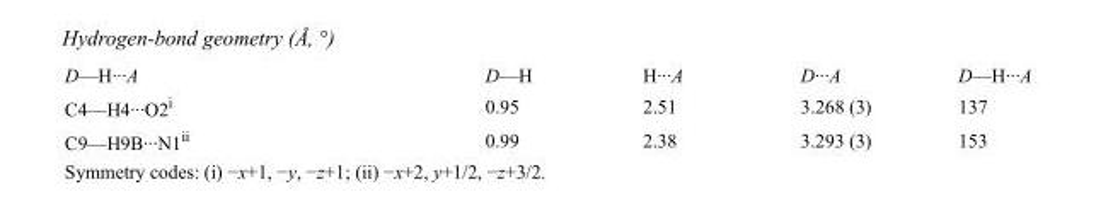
<table><tbody><tr><td>D—H···A</td><td>D—H</td><td>H···A</td><td>D···A</td><td>D—H···A</td></tr><tr><td>C4—H4···O2<sup>i</sup></td><td>0.95</td><td>2.51</td><td>3.268 (3)</td><td>137</td></tr><tr><td>C9—H9B···N1<sup>ii</sup></td><td>0.99</td><td>2.38</td><td>3.293 (3)</td><td>153</td></tr></tbody></table>